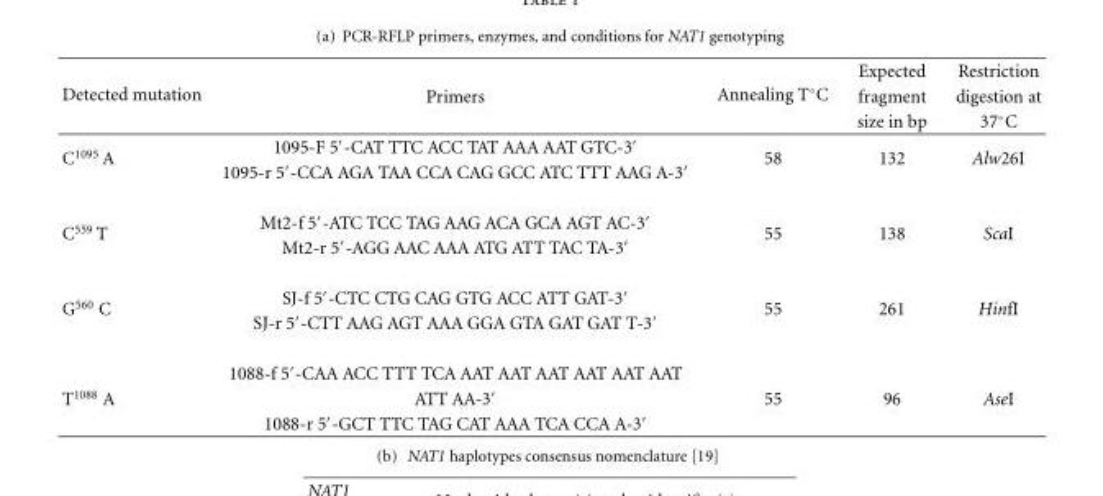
<table><thead><tr><td rowspan="3">Detected mutation</td><td rowspan="3">Primers</td><td rowspan="3">Annealing T◦C</td><td rowspan="3">Expected fragment size in bp</td><td rowspan="3">Restriction digestion at 37◦C</td></tr><tr></tr><tr></tr></thead><tbody><tr><td rowspan="2">C<sup>1095</sup> A</td><td>1095-F 5′-CAT TTC ACC TAT AAA AAT GTC-3′</td><td rowspan="2">58</td><td rowspan="2">132</td><td rowspan="2">Alw26I</td></tr><tr><td>1095-r 5′-CCA AGA TAA CCA CAG GCC ATC TTT AAG A-3′</td></tr><tr><td rowspan="2">C<sup>559</sup> T</td><td>Mt2-f 5′-ATC TCC TAG AAG ACA GCA AGT AC-3′</td><td rowspan="2">55</td><td rowspan="2">138</td><td rowspan="2">ScaI</td></tr><tr><td>Mt2-r 5′-AGG AAC AAA ATG ATT TAC TA-3′</td></tr><tr><td rowspan="3">G<sup>560</sup> C</td><td>SJ-f 5′-CTC CTG CAG GTG ACC ATT GAT-3′</td><td rowspan="2">55</td><td rowspan="2">261</td><td rowspan="2">HinfI</td></tr><tr><td>SJ-r 5′-CTT AAG AGT AAA GGA GTA GAT GAT T-3′</td></tr><tr><td>1088-f 5′-CAA ACC TTT TCA AAT AAT AAT AAT AAT AAT</td><td></td><td></td><td></td></tr><tr><td rowspan="2">T<sup>1088</sup> A</td><td>ATT AA-3′</td><td>55</td><td>96</td><td>AseI</td></tr><tr><td>1088-r 5′-GCT TTC TAG CAT AAA TCA CCA A-3′</td><td></td><td></td><td></td></tr></tbody></table>